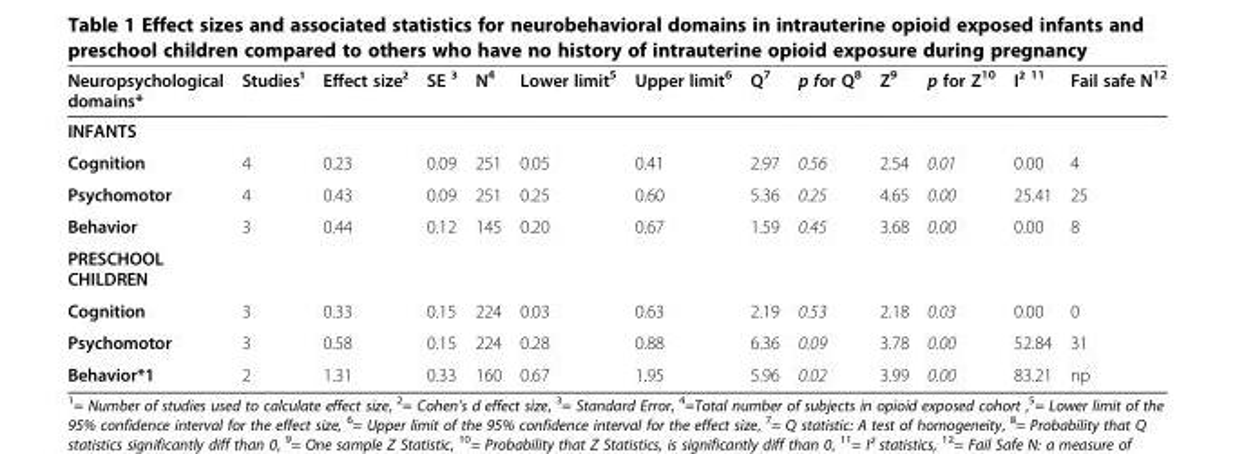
<table><thead><tr><td>Neuropsychological domains*</td><td>Studies¹</td><td>Effect size²</td><td>SE ³</td><td>N<sup>4</sup></td><td>Lower limit<sup>5</sup></td><td>Upper limit<sup>6</sup></td><td>Q<sup>7</sup></td><td>p for Q<sup>8</sup></td><td>Z<sup>9</sup></td><td>p for Z<sup>10</sup></td><td>I² <sup>11</sup></td><td>Fail safe N<sup>12</sup></td></tr></thead><tbody><tr><td colspan="13">INFANTS</td></tr><tr><td>Cognition</td><td>4</td><td>0.23</td><td>0.09</td><td>251</td><td>0.05</td><td>0.41</td><td>2.97</td><td>0.56</td><td>2.54</td><td>0.01</td><td>0.00</td><td>4</td></tr><tr><td>Psychomotor</td><td>4</td><td>0.43</td><td>0.09</td><td>251</td><td>0.25</td><td>0.60</td><td>5.36</td><td>0.25</td><td>4.65</td><td>0.00</td><td>25.41</td><td>25</td></tr><tr><td>Behavior</td><td>3</td><td>0.44</td><td>0.12</td><td>145</td><td>0.20</td><td>0.67</td><td>1.59</td><td>0.45</td><td>3.68</td><td>0.00</td><td>0.00</td><td>8</td></tr><tr><td colspan="13">PRESCHOOL CHILDREN</td></tr><tr><td>Cognition</td><td>3</td><td>0.33</td><td>0.15</td><td>224</td><td>0.03</td><td>0.63</td><td>2.19</td><td>0.53</td><td>2.18</td><td>0.03</td><td>0.00</td><td>0</td></tr><tr><td>Psychomotor</td><td>3</td><td>0.58</td><td>0.15</td><td>224</td><td>0.28</td><td>0.88</td><td>6.36</td><td>0.09</td><td>3.78</td><td>0.00</td><td>52.84</td><td>31</td></tr><tr><td>Behavior*1</td><td>2</td><td>1.31</td><td>0.33</td><td>160</td><td>0.67</td><td>1.95</td><td>5.96</td><td>0.02</td><td>3.99</td><td>0.00</td><td>83.21</td><td>np</td></tr></tbody></table>